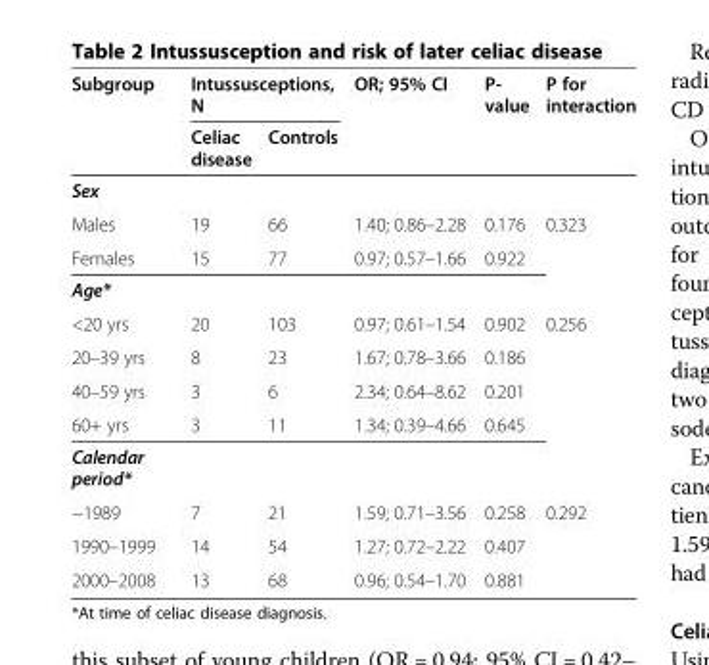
<table><thead><tr><td rowspan="2">Subgroup</td><td colspan="2">Intussusceptions, N</td><td rowspan="2">OR; 95% CI</td><td rowspan="2">P- value</td><td rowspan="2">P for interaction</td></tr><tr><td>Celiac disease</td><td>Controls</td></tr></thead><tbody><tr><td colspan="6">Sex</td></tr><tr><td>Males</td><td>19</td><td>66</td><td>1.40; 0.86–2.28</td><td>0.176</td><td>0.323</td></tr><tr><td>Females</td><td>15</td><td>77</td><td>0.97; 0.57–1.66</td><td>0.922</td><td></td></tr><tr><td colspan="6">Age*</td></tr><tr><td>&lt;20 yrs</td><td>20</td><td>103</td><td>0.97; 0.61–1.54</td><td>0.902</td><td rowspan="4">0.256</td></tr><tr><td>20–39 yrs</td><td>8</td><td>23</td><td>1.67; 0.78–3.66</td><td>0.186</td></tr><tr><td>40–59 yrs</td><td>3</td><td>6</td><td>2.34; 0.64–8.62</td><td>0.201</td></tr><tr><td>60+ yrs</td><td>3</td><td>11</td><td>1.34; 0.39–4.66</td><td>0.645</td></tr><tr><td colspan="6">Calendar period*</td></tr><tr><td>−1989</td><td>7</td><td>21</td><td>1.59; 0.71–3.56</td><td>0.258</td><td rowspan="2">0.292</td></tr><tr><td>1990–1999</td><td>14</td><td>54</td><td>1.27; 0.72–2.22</td><td>0.407</td></tr><tr><td>2000–2008</td><td>13</td><td>68</td><td>0.96; 0.54–1.70</td><td>0.881</td><td></td></tr></tbody></table>